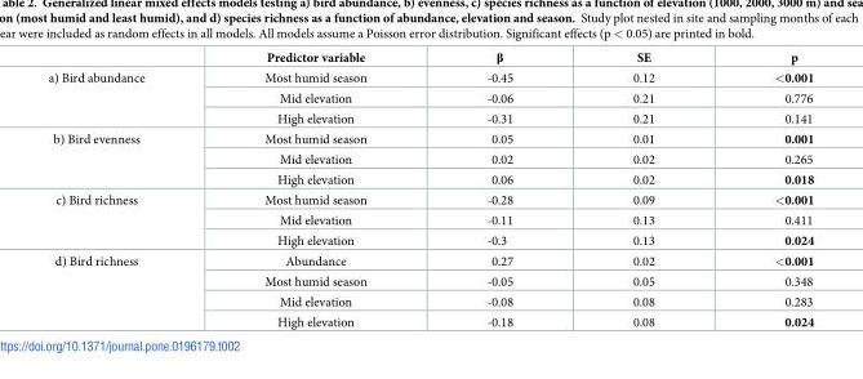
<table><thead><tr><td></td><td>Predictor variable</td><td>β</td><td>SE</td><td>p</td></tr></thead><tbody><tr><td rowspan="3">a) Bird abundance</td><td>Most humid season</td><td>-0.45</td><td>0.12</td><td>&lt;0.001</td></tr><tr><td>Mid elevation</td><td>-0.06</td><td>0.21</td><td>0.776</td></tr><tr><td>High elevation</td><td>-0.31</td><td>0.21</td><td>0.141</td></tr><tr><td rowspan="3">b) Bird evenness</td><td>Most humid season</td><td>0.05</td><td>0.01</td><td>0.001</td></tr><tr><td>Mid elevation</td><td>0.02</td><td>0.02</td><td>0.265</td></tr><tr><td>High elevation</td><td>0.06</td><td>0.02</td><td>0.018</td></tr><tr><td rowspan="3">c) Bird richness</td><td>Most humid season</td><td>-0.28</td><td>0.09</td><td>&lt;0.001</td></tr><tr><td>Mid elevation</td><td>-0.11</td><td>0.13</td><td>0.411</td></tr><tr><td>High elevation</td><td>-0.3</td><td>0.13</td><td>0.024</td></tr><tr><td rowspan="4">d) Bird richness</td><td>Abundance</td><td>0.27</td><td>0.02</td><td>&lt;0.001</td></tr><tr><td>Most humid season</td><td>-0.05</td><td>0.05</td><td>0.348</td></tr><tr><td>Mid elevation</td><td>-0.08</td><td>0.08</td><td>0.283</td></tr><tr><td>High elevation</td><td>-0.18</td><td>0.08</td><td>0.024</td></tr></tbody></table>